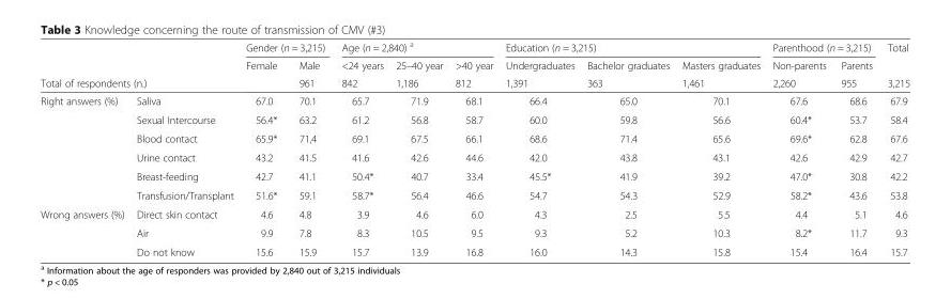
<table><thead><tr><td rowspan="2"></td><td rowspan="2"></td><td colspan="2">Gender (n = 3,215)</td><td colspan="3">Age (n = 2,840) <sup>a</sup></td><td colspan="3">Education (n = 3,215)</td><td colspan="2">Parenthood (n = 3,215)</td><td rowspan="3">Total 3,215</td></tr><tr><td rowspan="2">Female</td><td rowspan="2">Male 961</td><td rowspan="2">&lt;24 years 842</td><td rowspan="2">25–40 year 1,186</td><td rowspan="2">&gt;40 year 812</td><td rowspan="2">Undergraduates 1,391</td><td rowspan="2">Bachelor graduates 363</td><td rowspan="2">Masters graduates 1,461</td><td rowspan="2">Non-parents 2,260</td><td rowspan="2">Parents 955</td></tr><tr><td colspan="2">Total of respondents (n.)</td></tr></thead><tbody><tr><td rowspan="6">Right answers (%)</td><td>Saliva</td><td>67.0</td><td>70.1</td><td>65.7</td><td>71.9</td><td>68.1</td><td>66.4</td><td>65.0</td><td>70.1</td><td>67.6</td><td>68.6</td><td>67.9</td></tr><tr><td>Sexual Intercourse</td><td>56.4*</td><td>63.2</td><td>61.2</td><td>56.8</td><td>58.7</td><td>60.0</td><td>59.8</td><td>56.6</td><td>60.4*</td><td>53.7</td><td>58.4</td></tr><tr><td>Blood contact</td><td>65.9*</td><td>71,4</td><td>69.1</td><td>67.5</td><td>66.1</td><td>68.6</td><td>71.4</td><td>65.6</td><td>69.6*</td><td>62.8</td><td>67.6</td></tr><tr><td>Urine contact</td><td>43.2</td><td>41.5</td><td>41.6</td><td>42.6</td><td>44.6</td><td>42.0</td><td>43.8</td><td>43.1</td><td>42.6</td><td>42.9</td><td>42.7</td></tr><tr><td>Breast-feeding</td><td>42.7</td><td>41.1</td><td>50.4*</td><td>40.7</td><td>33.4</td><td>45.5*</td><td>41.9</td><td>39.2</td><td>47.0*</td><td>30.8</td><td>42.2</td></tr><tr><td>Transfusion/Transplant</td><td>51.6*</td><td>59.1</td><td>58.7*</td><td>56.4</td><td>46.6</td><td>54.7</td><td>54.3</td><td>52.9</td><td>58.2*</td><td>43.6</td><td>53.8</td></tr><tr><td rowspan="3">Wrong answers (%)</td><td>Direct skin contact</td><td>4.6</td><td>4.8</td><td>3.9</td><td>4.6</td><td>6.0</td><td>4.3</td><td>2.5</td><td>5.5</td><td>4.4</td><td>5.1</td><td>4.6</td></tr><tr><td>Air</td><td>9.9</td><td>7.8</td><td>8.3</td><td>10.5</td><td>9.5</td><td>9.3</td><td>5.2</td><td>10.3</td><td>8.2*</td><td>11.7</td><td>9.3</td></tr><tr><td>Do not know</td><td>15.6</td><td>15.9</td><td>15.7</td><td>13.9</td><td>16.8</td><td>16.0</td><td>14.3</td><td>15.8</td><td>15.4</td><td>16.4</td><td>15.7</td></tr></tbody></table>